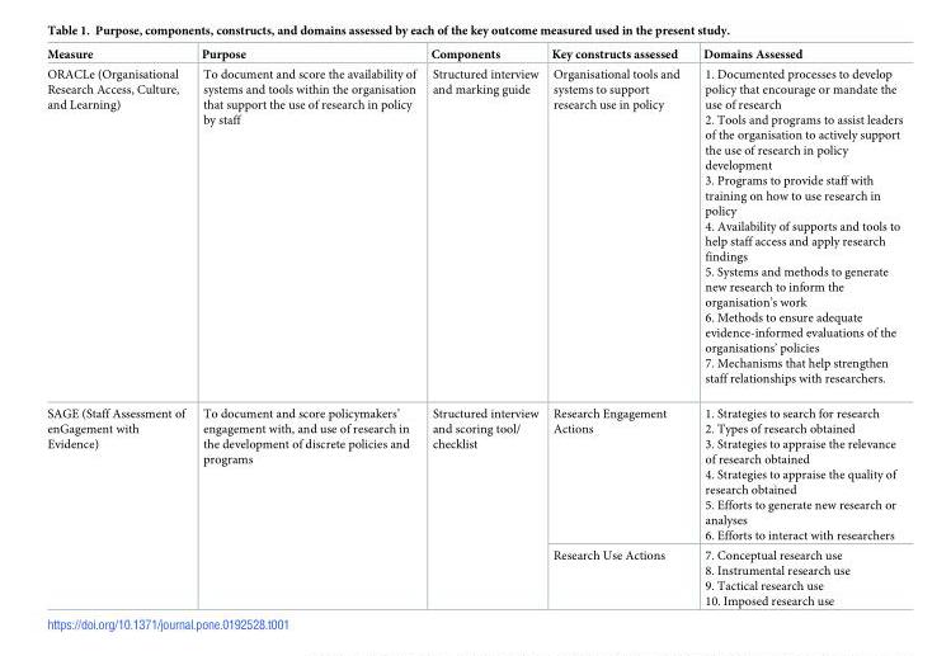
<table><thead><tr><td>Measure</td><td>Purpose</td><td>Components</td><td>Key constructs assessed</td><td>Domains Assessed</td></tr></thead><tbody><tr><td>ORACLe (Organisational Research Access, Culture, and Learning)</td><td>To document and score the availability of systems and tools within the organisation that support the use of research in policy by staff</td><td>Structured interview and marking guide</td><td>Organisational tools and systems to support research use in policy</td><td>1. Documented processes to develop policy that encourage or mandate the use of research 2. Tools and programs to assist leaders of the organisation to actively support the use of research in policy development 3. Programs to provide staff with training on how to use research in policy 4. Availability of supports and tools to help staff access and apply research findings 5. Systems and methods to generate new research to inform the organisation’s work 6. Methods to ensure adequate evidence-informed evaluations of the organisations’ policies 7. Mechanisms that help strengthen staff relationships with researchers.</td></tr><tr><td rowspan="2">SAGE (Staff Assessment of enGagement with Evidence)</td><td rowspan="2">To document and score policymakers’ engagement with, and use of research in the development of discrete policies and programs</td><td rowspan="2">Structured interview and scoring tool/ checklist</td><td>Research Engagement Actions</td><td>1. Strategies to search for research 2. Types of research obtained 3. Strategies to appraise the relevance of research obtained 4. Strategies to appraise the quality of research obtained 5. Efforts to generate new research or analyses 6. Efforts to interact with researchers</td></tr><tr><td>Research Use Actions</td><td>7. Conceptual research use 8. Instrumental research use 9. Tactical research use 10. Imposed research use</td></tr></tbody></table>